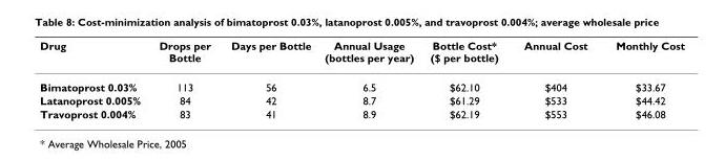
<table><thead><tr><td>Drug</td><td>Drops per Bottle</td><td>Days per Bottle</td><td>Annual Usage (bottles per year)</td><td>Bottle Cost* ($ per bottle)</td><td>Annual Cost</td><td>Monthly Cost</td></tr></thead><tbody><tr><td>Bimatoprost 0.03%</td><td>113</td><td>56</td><td>6.5</td><td>$62.10</td><td>$404</td><td>$33.67</td></tr><tr><td>Latanoprost 0.005%</td><td>84</td><td>42</td><td>8.7</td><td>$61.29</td><td>$533</td><td>$44.42</td></tr><tr><td>Travoprost 0.004%</td><td>83</td><td>41</td><td>8.9</td><td>$62.19</td><td>$553</td><td>$46.08</td></tr></tbody></table>